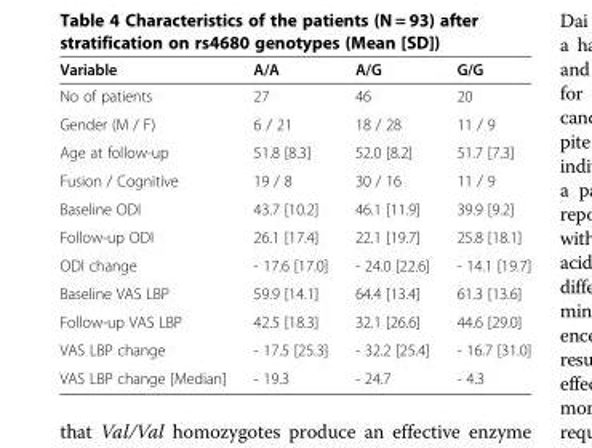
<table><thead><tr><td>Variable</td><td>A/A</td><td>A/G</td><td>G/G</td></tr></thead><tbody><tr><td>No of patients</td><td>27</td><td>46</td><td>20</td></tr><tr><td>Gender (M / F)</td><td>6 / 21</td><td>18 / 28</td><td>11 / 9</td></tr><tr><td>Age at follow-up</td><td>51.8 [8.3]</td><td>52.0 [8.2]</td><td>51.7 [7.3]</td></tr><tr><td>Fusion / Cognitive</td><td>19 / 8</td><td>30 / 16</td><td>11 / 9</td></tr><tr><td>Baseline ODI</td><td>43.7 [10.2]</td><td>46.1 [11.9]</td><td>39.9 [9.2]</td></tr><tr><td>Follow-up ODI</td><td>26.1 [17.4]</td><td>22.1 [19.7]</td><td>25.8 [18.1]</td></tr><tr><td>ODI change</td><td>- 17.6 [17.0]</td><td>- 24.0 [22.6]</td><td>- 14.1 [19.7]</td></tr><tr><td>Baseline VAS LBP</td><td>59.9 [14.1]</td><td>64.4 [13.4]</td><td>61.3 [13.6]</td></tr><tr><td>Follow-up VAS LBP</td><td>42.5 [18.3]</td><td>32.1 [26.6]</td><td>44.6 [29.0]</td></tr><tr><td>VAS LBP change</td><td>- 17.5 [25.3]</td><td>- 32.2 [25.4]</td><td>- 16.7 [31.0]</td></tr><tr><td>VAS LBP change [Median]</td><td>- 19.3</td><td>- 24.7</td><td>- 4.3</td></tr></tbody></table>